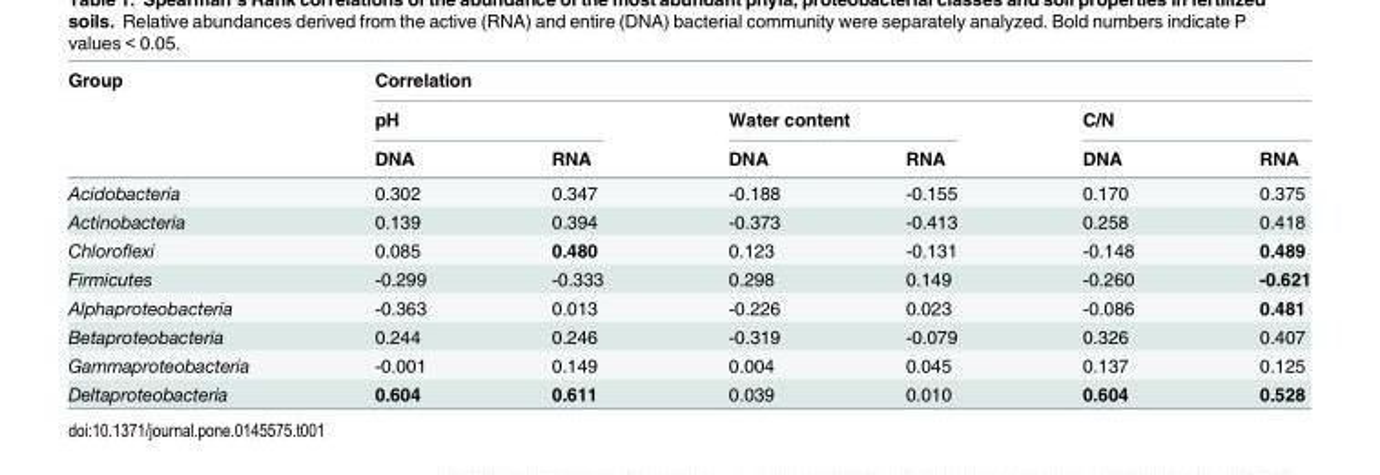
<table><thead><tr><td rowspan="3">Group</td><td colspan="6">Correlation</td></tr><tr><td colspan="2">pH</td><td colspan="2">Water content</td><td colspan="2">C/N</td></tr><tr><td>DNA</td><td>RNA</td><td>DNA</td><td>RNA</td><td>DNA</td><td>RNA</td></tr></thead><tbody><tr><td>Acidobacteria</td><td>0.302</td><td>0.347</td><td>-0.188</td><td>-0.155</td><td>0.170</td><td>0.375</td></tr><tr><td>Actinobacteria</td><td>0.139</td><td>0.394</td><td>-0.373</td><td>-0.413</td><td>0.258</td><td>0.418</td></tr><tr><td>Chloroflexi</td><td>0.085</td><td>0.480</td><td>0.123</td><td>-0.131</td><td>-0.148</td><td>0.489</td></tr><tr><td>Firmicutes</td><td>-0.299</td><td>-0.333</td><td>0.298</td><td>0.149</td><td>-0.260</td><td>-0.621</td></tr><tr><td>Alphaproteobacteria</td><td>-0.363</td><td>0.013</td><td>-0.226</td><td>0.023</td><td>-0.086</td><td>0.481</td></tr><tr><td>Betaproteobacteria</td><td>0.244</td><td>0.246</td><td>-0.319</td><td>-0.079</td><td>0.326</td><td>0.407</td></tr><tr><td>Gammaproteobacteria</td><td>-0.001</td><td>0.149</td><td>0.004</td><td>0.045</td><td>0.137</td><td>0.125</td></tr><tr><td>Deltaproteobacteria</td><td>0.604</td><td>0.611</td><td>0.039</td><td>0.010</td><td>0.604</td><td>0.528</td></tr></tbody></table>